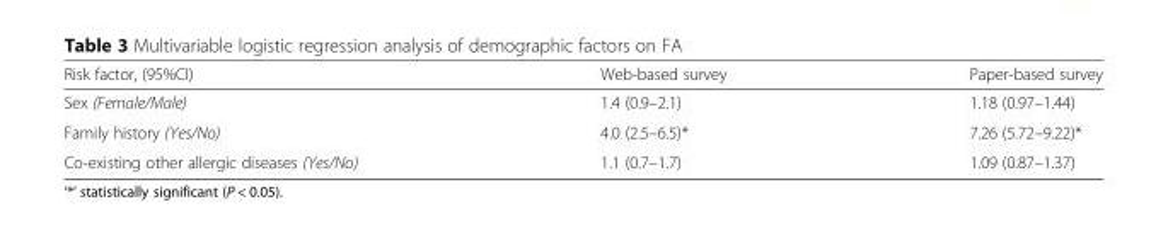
<table><thead><tr><td>Risk factor, (95%CI)</td><td>Web-based survey</td><td>Paper-based survey</td></tr></thead><tbody><tr><td>Sex (Female/Male)</td><td>1.4 (0.9–2.1)</td><td>1.18 (0.97–1.44)</td></tr><tr><td>Family history (Yes/No)</td><td>4.0 (2.5–6.5)*</td><td>7.26 (5.72–9.22)*</td></tr><tr><td>Co-existing other allergic diseases (Yes/No)</td><td>1.1 (0.7–1.7)</td><td>1.09 (0.87–1.37)</td></tr></tbody></table>